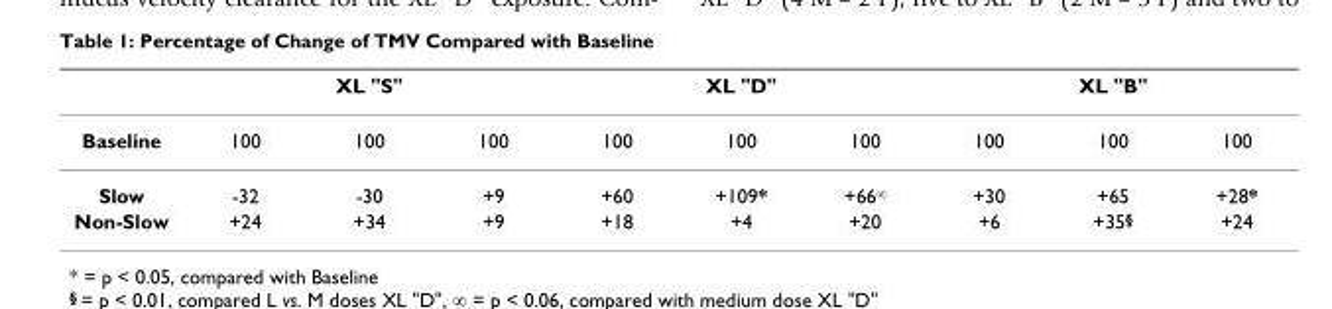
<table><thead><tr><td rowspan="2">Baseline</td><td colspan="3">XL &quot;S&quot;</td><td colspan="3">XL &quot;D&quot;</td><td colspan="3">XL &quot;B&quot;</td></tr><tr><td>100</td><td>100</td><td>100</td><td>100</td><td>100</td><td>100</td><td>100</td><td>100</td><td>100</td></tr></thead><tbody><tr><td>Slow</td><td>-32</td><td>-30</td><td>+9</td><td>+60</td><td>+109*</td><td>+66<sup>∞</sup></td><td>+30</td><td>+65</td><td>+28*</td></tr><tr><td>Non-Slow</td><td>+24</td><td>+34</td><td>+9</td><td>+18</td><td>+4</td><td>+20</td><td>+6</td><td>+35<sup>§</sup></td><td>+24</td></tr></tbody></table>